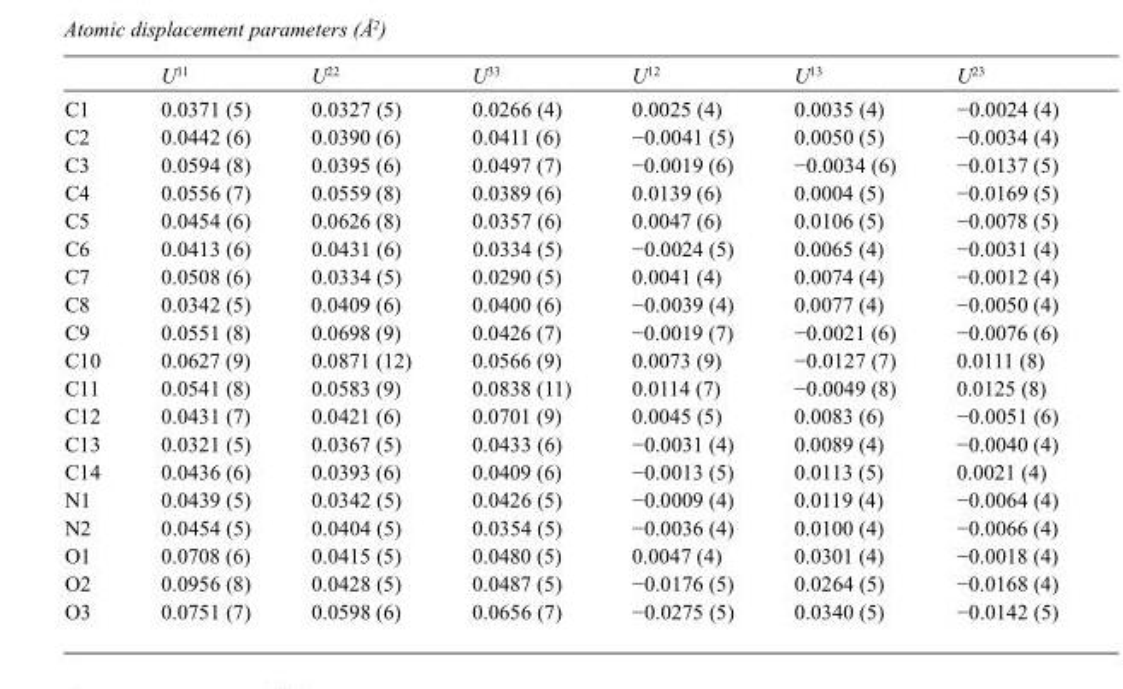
<table><thead><tr><td></td><td>U<sup>11</sup></td><td>U<sup>22</sup></td><td>U<sup>33</sup></td><td>U<sup>12</sup></td><td>U<sup>13</sup></td><td>U<sup>23</sup></td></tr></thead><tbody><tr><td>C1</td><td>0.0371 (5)</td><td>0.0327 (5)</td><td>0.0266 (4)</td><td>0.0025 (4)</td><td>0.0035 (4)</td><td>−0.0024 (4)</td></tr><tr><td>C2</td><td>0.0442 (6)</td><td>0.0390 (6)</td><td>0.0411 (6)</td><td>−0.0041 (5)</td><td>0.0050 (5)</td><td>−0.0034 (4)</td></tr><tr><td>C3</td><td>0.0594 (8)</td><td>0.0395 (6)</td><td>0.0497 (7)</td><td>−0.0019 (6)</td><td>−0.0034 (6)</td><td>−0.0137 (5)</td></tr><tr><td>C4</td><td>0.0556 (7)</td><td>0.0559 (8)</td><td>0.0389 (6)</td><td>0.0139 (6)</td><td>0.0004 (5)</td><td>−0.0169 (5)</td></tr><tr><td>C5</td><td>0.0454 (6)</td><td>0.0626 (8)</td><td>0.0357 (6)</td><td>0.0047 (6)</td><td>0.0106 (5)</td><td>−0.0078 (5)</td></tr><tr><td>C6</td><td>0.0413 (6)</td><td>0.0431 (6)</td><td>0.0334 (5)</td><td>−0.0024 (5)</td><td>0.0065 (4)</td><td>−0.0031 (4)</td></tr><tr><td>C7</td><td>0.0508 (6)</td><td>0.0334 (5)</td><td>0.0290 (5)</td><td>0.0041 (4)</td><td>0.0074 (4)</td><td>−0.0012 (4)</td></tr><tr><td>C8</td><td>0.0342 (5)</td><td>0.0409 (6)</td><td>0.0400 (6)</td><td>−0.0039 (4)</td><td>0.0077 (4)</td><td>−0.0050 (4)</td></tr><tr><td>C9</td><td>0.0551 (8)</td><td>0.0698 (9)</td><td>0.0426 (7)</td><td>−0.0019 (7)</td><td>−0.0021 (6)</td><td>−0.0076 (6)</td></tr><tr><td>C10</td><td>0.0627 (9)</td><td>0.0871 (12)</td><td>0.0566 (9)</td><td>0.0073 (9)</td><td>−0.0127 (7)</td><td>0.0111 (8)</td></tr><tr><td>C11</td><td>0.0541 (8)</td><td>0.0583 (9)</td><td>0.0838 (11)</td><td>0.0114 (7)</td><td>−0.0049 (8)</td><td>0.0125 (8)</td></tr><tr><td>C12</td><td>0.0431 (7)</td><td>0.0421 (6)</td><td>0.0701 (9)</td><td>0.0045 (5)</td><td>0.0083 (6)</td><td>−0.0051 (6)</td></tr><tr><td>C13</td><td>0.0321 (5)</td><td>0.0367 (5)</td><td>0.0433 (6)</td><td>−0.0031 (4)</td><td>0.0089 (4)</td><td>−0.0040 (4)</td></tr><tr><td>C14</td><td>0.0436 (6)</td><td>0.0393 (6)</td><td>0.0409 (6)</td><td>−0.0013 (5)</td><td>0.0113 (5)</td><td>0.0021 (4)</td></tr><tr><td>N1</td><td>0.0439 (5)</td><td>0.0342 (5)</td><td>0.0426 (5)</td><td>−0.0009 (4)</td><td>0.0119 (4)</td><td>−0.0064 (4)</td></tr><tr><td>N2</td><td>0.0454 (5)</td><td>0.0404 (5)</td><td>0.0354 (5)</td><td>−0.0036 (4)</td><td>0.0100 (4)</td><td>−0.0066 (4)</td></tr><tr><td>O1</td><td>0.0708 (6)</td><td>0.0415 (5)</td><td>0.0480 (5)</td><td>0.0047 (4)</td><td>0.0301 (4)</td><td>−0.0018 (4)</td></tr><tr><td>O2</td><td>0.0956 (8)</td><td>0.0428 (5)</td><td>0.0487 (5)</td><td>−0.0176 (5)</td><td>0.0264 (5)</td><td>−0.0168 (4)</td></tr><tr><td>O3</td><td>0.0751 (7)</td><td>0.0598 (6)</td><td>0.0656 (7)</td><td>−0.0275 (5)</td><td>0.0340 (5)</td><td>−0.0142 (5)</td></tr></tbody></table>